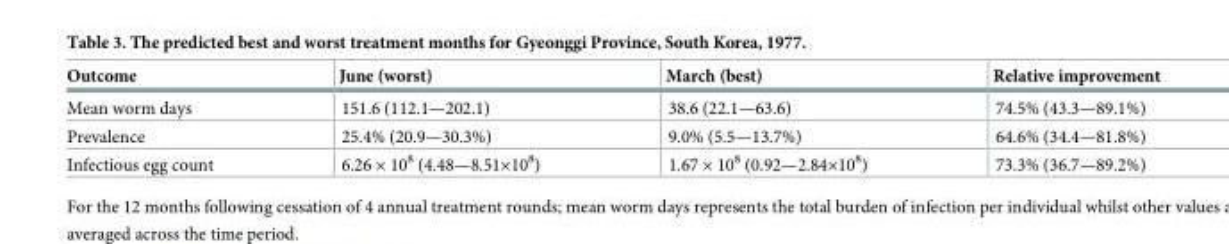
<table><thead><tr><td>Outcome</td><td>June (worst)</td><td>March (best)</td><td>Relative improvement</td></tr></thead><tbody><tr><td>Mean worm days</td><td>151.6 (112.1—202.1)</td><td>38.6 (22.1—63.6)</td><td>74.5% (43.3—89.1%)</td></tr><tr><td>Prevalence</td><td>25.4% (20.9—30.3%)</td><td>9.0% (5.5—13.7%)</td><td>64.6% (34.4—81.8%)</td></tr><tr><td>Infectious egg count</td><td>6.26 × 10<sup>8</sup> (4.48—8.51×10<sup>8</sup>)</td><td>1.67 × 10<sup>8</sup> (0.92—2.84×10<sup>8</sup>)</td><td>73.3% (36.7—89.2%)</td></tr></tbody></table>